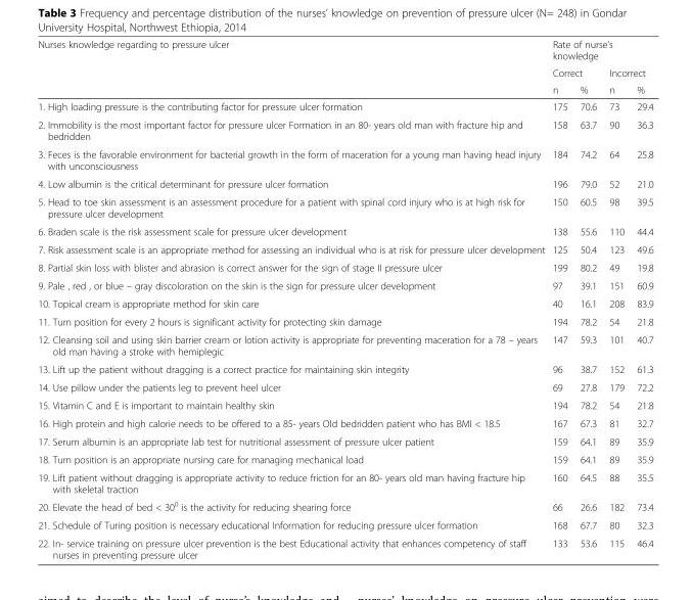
<table><thead><tr><td rowspan="3">Nurses knowledge regarding to pressure ulcer</td><td colspan="4">Rate of nurse’s knowledge</td></tr><tr><td colspan="2">Correct</td><td colspan="2">Incorrect</td></tr><tr><td>n</td><td>%</td><td>n</td><td>%</td></tr></thead><tbody><tr><td>1. High loading pressure is the contributing factor for pressure ulcer formation</td><td>175</td><td>70.6</td><td>73</td><td>29.4</td></tr><tr><td>2. Immobility is the most important factor for pressure ulcer Formation in an 80- years old man with fracture hip and bedridden</td><td>158</td><td>63.7</td><td>90</td><td>36.3</td></tr><tr><td>3. Feces is the favorable environment for bacterial growth in the form of maceration for a young man having head injury with unconsciousness</td><td>184</td><td>74.2</td><td>64</td><td>25.8</td></tr><tr><td>4. Low albumin is the critical determinant for pressure ulcer formation</td><td>196</td><td>79.0</td><td>52</td><td>21.0</td></tr><tr><td>5. Head to toe skin assessment is an assessment procedure for a patient with spinal cord injury who is at high risk for pressure ulcer development</td><td>150</td><td>60.5</td><td>98</td><td>39.5</td></tr><tr><td>6. Braden scale is the risk assessment scale for pressure ulcer development</td><td>138</td><td>55.6</td><td>110</td><td>44.4</td></tr><tr><td>7. Risk assessment scale is an appropriate method for assessing an individual who is at risk for pressure ulcer development</td><td>125</td><td>50.4</td><td>123</td><td>49.6</td></tr><tr><td>8. Partial skin loss with blister and abrasion is correct answer for the sign of stage II pressure ulcer</td><td>199</td><td>80.2</td><td>49</td><td>19.8</td></tr><tr><td>9. Pale , red , or blue – gray discoloration on the skin is the sign for pressure ulcer development</td><td>97</td><td>39.1</td><td>151</td><td>60.9</td></tr><tr><td>10. Topical cream is appropriate method for skin care</td><td>40</td><td>16.1</td><td>208</td><td>83.9</td></tr><tr><td>11. Turn position for every 2 hours is significant activity for protecting skin damage</td><td>194</td><td>78.2</td><td>54</td><td>21.8</td></tr><tr><td>12. Cleansing soil and using skin barrier cream or lotion activity is appropriate for preventing maceration for a 78 – years old man having a stroke with hemiplegic</td><td>147</td><td>59.3</td><td>101</td><td>40.7</td></tr><tr><td>13. Lift up the patient without dragging is a correct practice for maintaining skin integrity</td><td>96</td><td>38.7</td><td>152</td><td>61.3</td></tr><tr><td>14. Use pillow under the patients leg to prevent heel ulcer</td><td>69</td><td>27.8</td><td>179</td><td>72.2</td></tr><tr><td>15. Vitamin C and E is important to maintain healthy skin</td><td>194</td><td>78.2</td><td>54</td><td>21.8</td></tr><tr><td>16. High protein and high calorie needs to be offered to a 85- years Old bedridden patient who has BMI &lt; 18.5</td><td>167</td><td>67.3</td><td>81</td><td>32.7</td></tr><tr><td>17. Serum albumin is an appropriate lab test for nutritional assessment of pressure ulcer patient</td><td>159</td><td>64.1</td><td>89</td><td>35.9</td></tr><tr><td>18. Turn position is an appropriate nursing care for managing mechanical load</td><td>159</td><td>64.1</td><td>89</td><td>35.9</td></tr><tr><td>19. Lift patient without dragging is appropriate activity to reduce friction for an 80- years old man having fracture hip with skeletal traction</td><td>160</td><td>64.5</td><td>88</td><td>35.5</td></tr><tr><td>20. Elevate the head of bed &lt; 30<sup>0</sup> is the activity for reducing shearing force</td><td>66</td><td>26.6</td><td>182</td><td>73.4</td></tr><tr><td>21. Schedule of Turing position is necessary educational Information for reducing pressure ulcer formation</td><td>168</td><td>67.7</td><td>80</td><td>32.3</td></tr><tr><td>22. In- service training on pressure ulcer prevention is the best Educational activity that enhances competency of staff nurses in preventing pressure ulcer</td><td>133</td><td>53.6</td><td>115</td><td>46.4</td></tr></tbody></table>